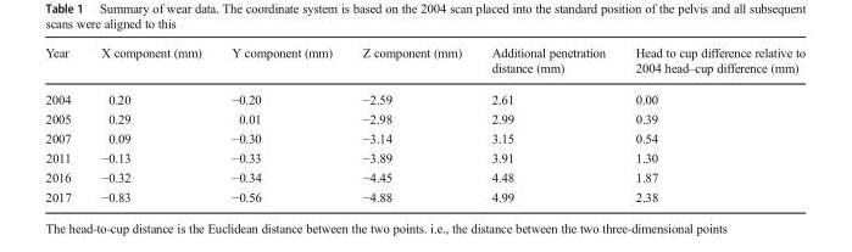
<table><thead><tr><td>Year</td><td>X component (mm)</td><td>Y component (mm)</td><td>Z component (mm)</td><td>Additional penetration distance (mm)</td><td>Head to cup difference relative to 2004 head–cup difference (mm)</td></tr></thead><tbody><tr><td>2004</td><td>0.20</td><td>−0.20</td><td>−2.59</td><td>2.61</td><td>0.00</td></tr><tr><td>2005</td><td>0.29</td><td>0.01</td><td>−2.98</td><td>2.99</td><td>0.39</td></tr><tr><td>2007</td><td>0.09</td><td>−0.30</td><td>−3.14</td><td>3.15</td><td>0.54</td></tr><tr><td>2011</td><td>−0.13</td><td>−0.33</td><td>−3.89</td><td>3.91</td><td>1.30</td></tr><tr><td>2016</td><td>−0.32</td><td>−0.34</td><td>−4.45</td><td>4.48</td><td>1.87</td></tr><tr><td>2017</td><td>−0.83</td><td>−0.56</td><td>−4.88</td><td>4.99</td><td>2.38</td></tr></tbody></table>